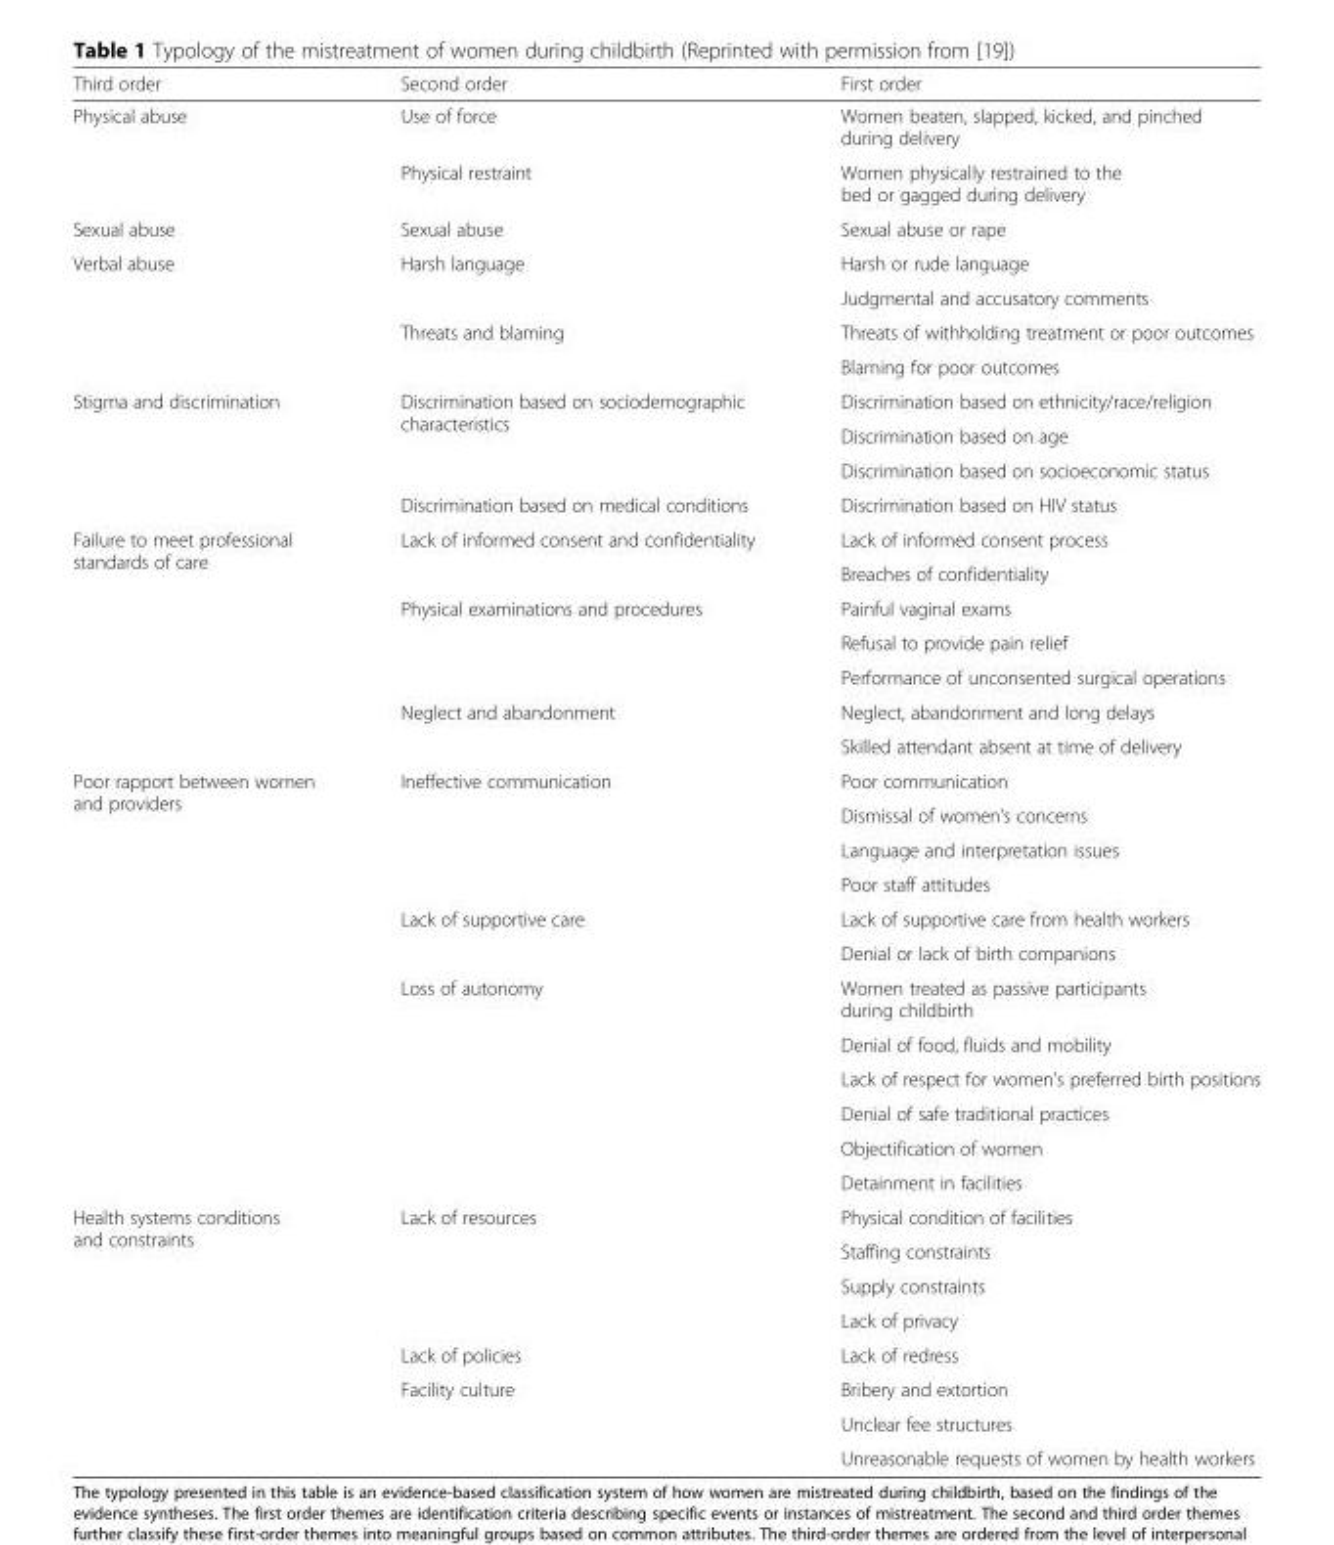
<table><thead><tr><td>Third order</td><td>Second order</td><td>First order</td></tr></thead><tbody><tr><td rowspan="2">Physical abuse</td><td>Use of force</td><td>Women beaten, slapped, kicked, and pinched during delivery</td></tr><tr><td>Physical restraint</td><td>Women physically restrained to the bed or gagged during delivery</td></tr><tr><td>Sexual abuse</td><td>Sexual abuse</td><td>Sexual abuse or rape</td></tr><tr><td rowspan="4">Verbal abuse</td><td rowspan="2">Harsh language</td><td>Harsh or rude language</td></tr><tr><td>Judgmental and accusatory comments</td></tr><tr><td rowspan="2">Threats and blaming</td><td>Threats of withholding treatment or poor outcomes</td></tr><tr><td>Blaming for poor outcomes</td></tr><tr><td rowspan="4">Stigma and discrimination</td><td rowspan="3">Discrimination based on sociodemographic characteristics</td><td>Discrimination based on ethnicity/race/religion</td></tr><tr><td>Discrimination based on age</td></tr><tr><td>Discrimination based on socioeconomic status</td></tr><tr><td>Discrimination based on medical conditions</td><td>Discrimination based on HIV status</td></tr><tr><td rowspan="7">Failure to meet professional standards of care</td><td rowspan="2">Lack of informed consent and confidentiality</td><td>Lack of informed consent process</td></tr><tr><td>Breaches of confidentiality</td></tr><tr><td rowspan="3">Physical examinations and procedures</td><td>Painful vaginal exams</td></tr><tr><td>Refusal to provide pain relief</td></tr><tr><td>Performance of unconsented surgical operations</td></tr><tr><td rowspan="2">Neglect and abandonment</td><td>Neglect, abandonment and long delays</td></tr><tr><td>Skilled attendant absent at time of delivery</td></tr><tr><td rowspan="12">Poor rapport between women and providers</td><td rowspan="4">Ineffective communication</td><td>Poor communication</td></tr><tr><td>Dismissal of women’s concerns</td></tr><tr><td>Language and interpretation issues</td></tr><tr><td>Poor staff attitudes</td></tr><tr><td rowspan="2">Lack of supportive care</td><td>Lack of supportive care from health workers</td></tr><tr><td>Denial or lack of birth companions</td></tr><tr><td rowspan="6">Loss of autonomy</td><td>Women treated as passive participants during childbirth</td></tr><tr><td>Denial of food, fluids and mobility</td></tr><tr><td>Lack of respect for women’s preferred birth positions</td></tr><tr><td>Denial of safe traditional practices</td></tr><tr><td>Objectification of women</td></tr><tr><td>Detainment in facilities</td></tr><tr><td rowspan="8">Health systems conditions and constraints</td><td rowspan="4">Lack of resources</td><td>Physical condition of facilities</td></tr><tr><td>Staffing constraints</td></tr><tr><td>Supply constraints</td></tr><tr><td>Lack of privacy</td></tr><tr><td>Lack of policies</td><td>Lack of redress</td></tr><tr><td rowspan="3">Facility culture</td><td>Bribery and extortion</td></tr><tr><td>Unclear fee structures</td></tr><tr><td>Unreasonable requests of women by health workers</td></tr></tbody></table>